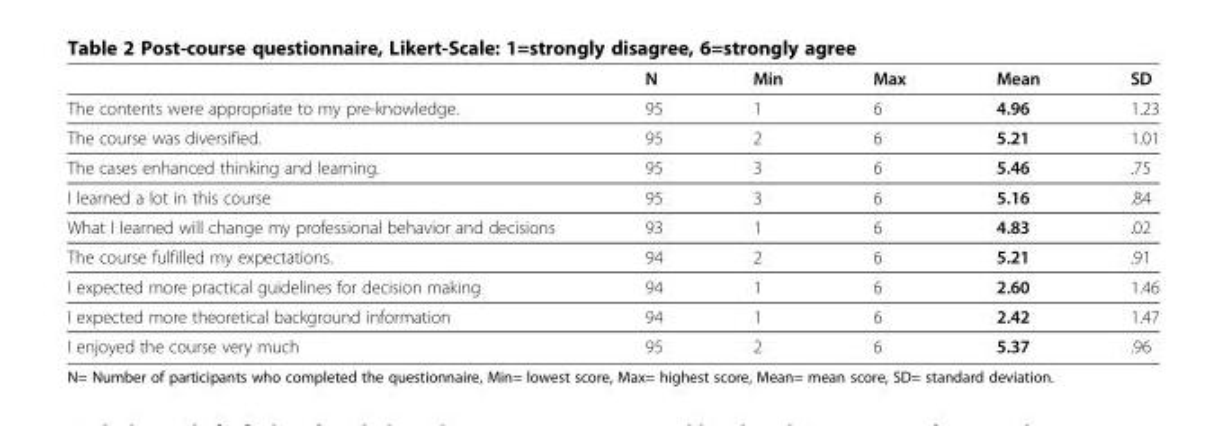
<table><thead><tr><td></td><td>N</td><td>Min</td><td>Max</td><td>Mean</td><td>SD</td></tr></thead><tbody><tr><td>The contents were appropriate to my pre-knowledge.</td><td>95</td><td>1</td><td>6</td><td>4.96</td><td>1.23</td></tr><tr><td>The course was diversified.</td><td>95</td><td>2</td><td>6</td><td>5.21</td><td>1.01</td></tr><tr><td>The cases enhanced thinking and learning.</td><td>95</td><td>3</td><td>6</td><td>5.46</td><td>.75</td></tr><tr><td>I learned a lot in this course</td><td>95</td><td>3</td><td>6</td><td>5.16</td><td>.84</td></tr><tr><td>What I learned will change my professional behavior and decisions</td><td>93</td><td>1</td><td>6</td><td>4.83</td><td>.02</td></tr><tr><td>The course fulfilled my expectations.</td><td>94</td><td>2</td><td>6</td><td>5.21</td><td>.91</td></tr><tr><td>I expected more practical guidelines for decision making</td><td>94</td><td>1</td><td>6</td><td>2.60</td><td>1.46</td></tr><tr><td>I expected more theoretical background information</td><td>94</td><td>1</td><td>6</td><td>2.42</td><td>1.47</td></tr><tr><td>I enjoyed the course very much</td><td>95</td><td>2</td><td>6</td><td>5.37</td><td>.96</td></tr></tbody></table>